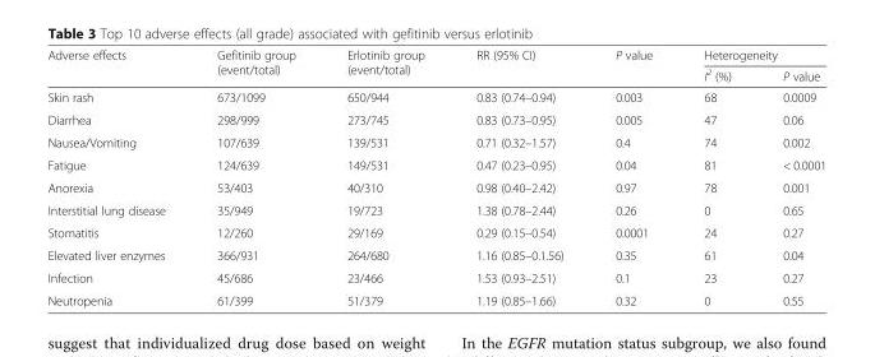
<table><thead><tr><td rowspan="2">Adverse effects</td><td rowspan="2">Gefitinib group (event/total)</td><td rowspan="2">Erlotinib group (event/total)</td><td rowspan="2">RR (95% CI)</td><td rowspan="2">P value</td><td colspan="2">Heterogeneity</td></tr><tr><td>I<sup>2</sup> (%)</td><td>P value</td></tr></thead><tbody><tr><td>Skin rash</td><td>673/1099</td><td>650/944</td><td>0.83 (0.74–0.94)</td><td>0.003</td><td>68</td><td>0.0009</td></tr><tr><td>Diarrhea</td><td>298/999</td><td>273/745</td><td>0.83 (0.73–0.95)</td><td>0.005</td><td>47</td><td>0.06</td></tr><tr><td>Nausea/Vomiting</td><td>107/639</td><td>139/531</td><td>0.71 (0.32–1.57)</td><td>0.4</td><td>74</td><td>0.002</td></tr><tr><td>Fatigue</td><td>124/639</td><td>149/531</td><td>0.47 (0.23–0.95)</td><td>0.04</td><td>81</td><td>&lt; 0.0001</td></tr><tr><td>Anorexia</td><td>53/403</td><td>40/310</td><td>0.98 (0.40–2.42)</td><td>0.97</td><td>78</td><td>0.001</td></tr><tr><td>Interstitial lung disease</td><td>35/949</td><td>19/723</td><td>1.38 (0.78–2.44)</td><td>0.26</td><td>0</td><td>0.65</td></tr><tr><td>Stomatitis</td><td>12/260</td><td>29/169</td><td>0.29 (0.15–0.54)</td><td>0.0001</td><td>24</td><td>0.27</td></tr><tr><td>Elevated liver enzymes</td><td>366/931</td><td>264/680</td><td>1.16 (0.85–0.1.56)</td><td>0.35</td><td>61</td><td>0.04</td></tr><tr><td>Infection</td><td>45/686</td><td>23/466</td><td>1.53 (0.93–2.51)</td><td>0.1</td><td>23</td><td>0.27</td></tr><tr><td>Neutropenia</td><td>61/399</td><td>51/379</td><td>1.19 (0.85–1.66)</td><td>0.32</td><td>0</td><td>0.55</td></tr></tbody></table>